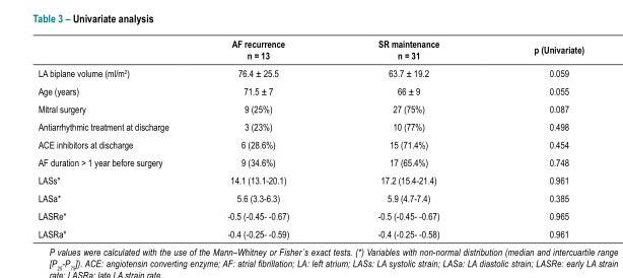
<table><thead><tr><td></td><td>AF recurrence n = 13</td><td>SR maintenance n = 31</td><td>p (Univariate)</td></tr></thead><tbody><tr><td>LA biplane volume (ml/m<sup>2</sup>)</td><td>76.4 ± 25.5</td><td>63.7 ± 19.2</td><td>0.059</td></tr><tr><td>Age (years)</td><td>71.5 ± 7</td><td>66 ± 9</td><td>0.055</td></tr><tr><td>Mitral surgery</td><td>9 (25%)</td><td>27 (75%)</td><td>0.087</td></tr><tr><td>Antiarrhythmic treatment at discharge</td><td>3 (23%)</td><td>10 (77%)</td><td>0.498</td></tr><tr><td>ACE inhibitors at discharge</td><td>6 (28.6%)</td><td>15 (71.4%)</td><td>0.454</td></tr><tr><td>AF duration &gt; 1 year before surgery</td><td>9 (34.6%)</td><td>17 (65.4%)</td><td>0.748</td></tr><tr><td>LASs*</td><td>14.1 (13.1-20.1)</td><td>17.2 (15.4-21.4)</td><td>0.961</td></tr><tr><td>LASa*</td><td>5.6 (3.3-6.3)</td><td>5.9 (4.7-7.4)</td><td>0.385</td></tr><tr><td>LASRe*</td><td>-0.5 (-0.45- -0.67)</td><td>-0.5 (-0.45- -0.67)</td><td>0.965</td></tr><tr><td>LASRa*</td><td>-0.4 (-0.25- -0.59)</td><td>-0.4 (-0.25- -0.58)</td><td>0.961</td></tr></tbody></table>